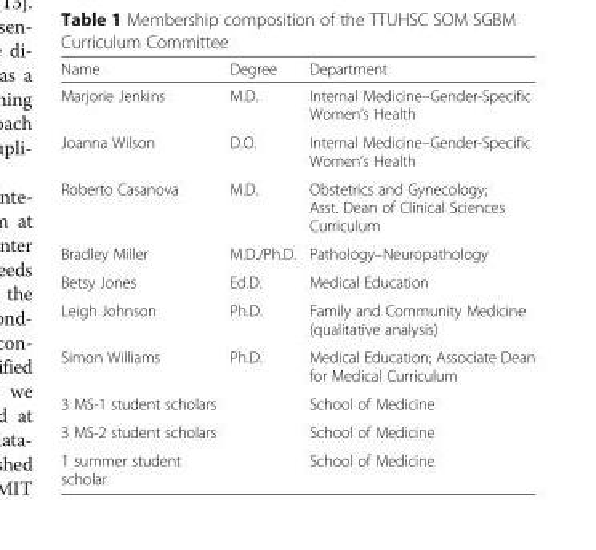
<table><thead><tr><td>Name</td><td>Degree</td><td>Department</td></tr></thead><tbody><tr><td>Marjorie Jenkins</td><td>M.D.</td><td>Internal Medicine–Gender-Specific Women’s Health</td></tr><tr><td>Joanna Wilson</td><td>D.O.</td><td>Internal Medicine–Gender-Specific Women’s Health</td></tr><tr><td>Roberto Casanova</td><td>M.D.</td><td>Obstetrics and Gynecology; Asst. Dean of Clinical Sciences Curriculum</td></tr><tr><td>Bradley Miller</td><td>M.D./Ph.D.</td><td>Pathology–Neuropathology</td></tr><tr><td>Betsy Jones</td><td>Ed.D.</td><td>Medical Education</td></tr><tr><td>Leigh Johnson</td><td>Ph.D.</td><td>Family and Community Medicine (qualitative analysis)</td></tr><tr><td>Simon Williams</td><td>Ph.D.</td><td>Medical Education; Associate Dean for Medical Curriculum</td></tr><tr><td>3 MS-1 student scholars</td><td></td><td>School of Medicine</td></tr><tr><td>3 MS-2 student scholars</td><td></td><td>School of Medicine</td></tr><tr><td>1 summer student scholar</td><td></td><td>School of Medicine</td></tr></tbody></table>